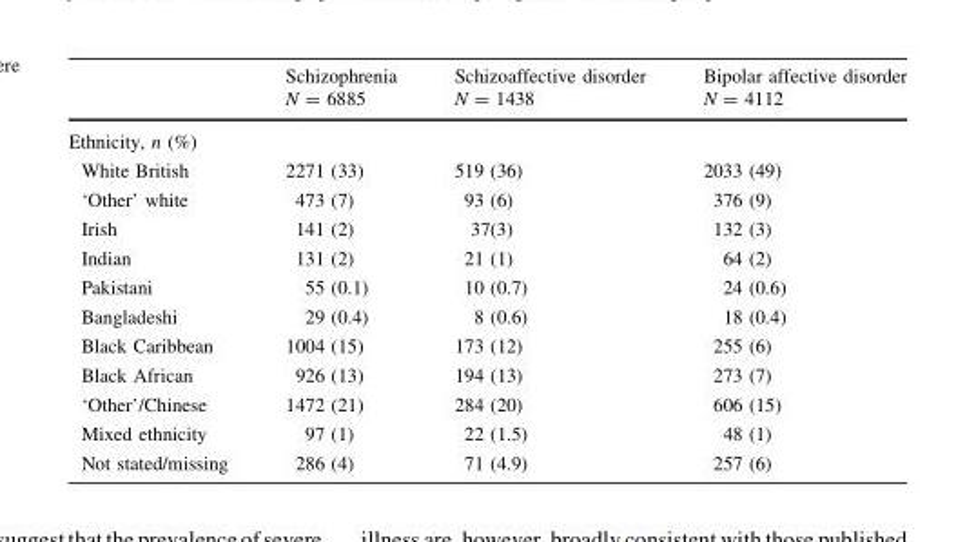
<table><thead><tr><td rowspan="2"></td><td rowspan="2">Schizophrenia N = 6885</td><td rowspan="2">Schizoaffective disorder N = 1438</td><td rowspan="2">Bipolar affective disorder N = 4112</td></tr><tr></tr></thead><tbody><tr><td colspan="4">Ethnicity, n (%)</td></tr><tr><td>White British</td><td>2271 (33)</td><td>519 (36)</td><td>2033 (49)</td></tr><tr><td>‘Other’ white</td><td>473 (7)</td><td>93 (6)</td><td>376 (9)</td></tr><tr><td>Irish</td><td>141 (2)</td><td>37(3)</td><td>132 (3)</td></tr><tr><td>Indian</td><td>131 (2)</td><td>21 (1)</td><td>64 (2)</td></tr><tr><td>Pakistani</td><td>55 (0.1)</td><td>10 (0.7)</td><td>24 (0.6)</td></tr><tr><td>Bangladeshi</td><td>29 (0.4)</td><td>8 (0.6)</td><td>18 (0.4)</td></tr><tr><td>Black Caribbean</td><td>1004 (15)</td><td>173 (12)</td><td>255 (6)</td></tr><tr><td>Black African</td><td>926 (13)</td><td>194 (13)</td><td>273 (7)</td></tr><tr><td>‘Other’/Chinese</td><td>1472 (21)</td><td>284 (20)</td><td>606 (15)</td></tr><tr><td>Mixed ethnicity</td><td>97 (1)</td><td>22 (1.5)</td><td>48 (1)</td></tr><tr><td>Not stated/missing</td><td>286 (4)</td><td>71 (4.9)</td><td>257 (6)</td></tr></tbody></table>